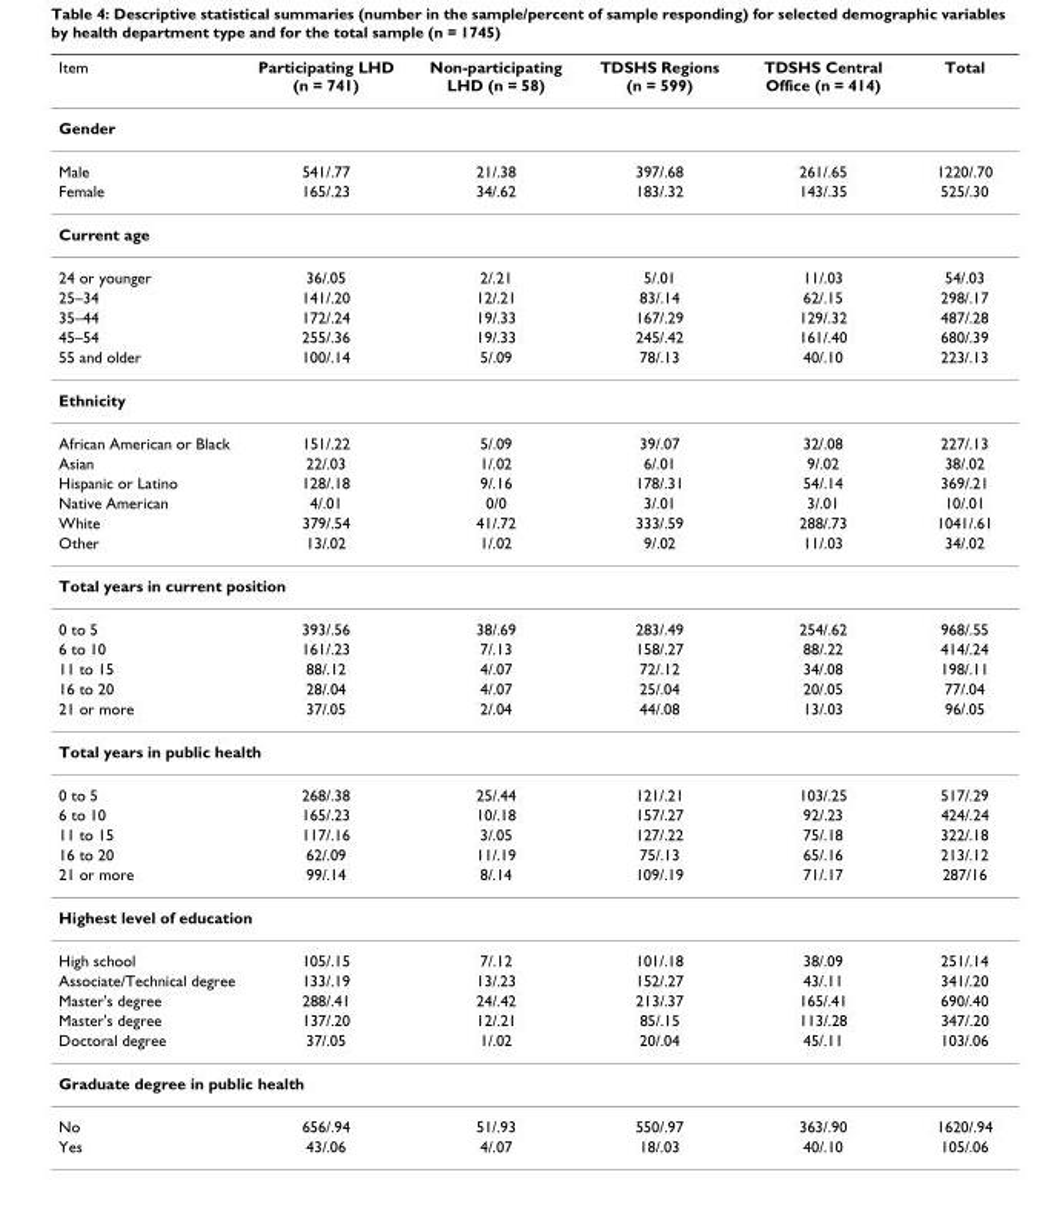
<table><thead><tr><td>Item</td><td>Participating LHD (n = 741)</td><td>Non-participating LHD (n = 58)</td><td>TDSHS Regions (n = 599)</td><td>TDSHS Central Office (n = 414)</td><td>Total</td></tr></thead><tbody><tr><td colspan="6">Gender</td></tr><tr><td>Male</td><td>541/.77</td><td>21/.38</td><td>397/.68</td><td>261/.65</td><td>1220/.70</td></tr><tr><td>Female</td><td>165/.23</td><td>34/.62</td><td>183/.32</td><td>143/.35</td><td>525/.30</td></tr><tr><td colspan="6">Current age</td></tr><tr><td>24 or younger</td><td>36/.05</td><td>2/.21</td><td>5/.01</td><td>11/.03</td><td>54/.03</td></tr><tr><td>25–34</td><td>141/.20</td><td>12/.21</td><td>83/.14</td><td>62/.15</td><td>298/.17</td></tr><tr><td>35–44</td><td>172/.24</td><td>19/.33</td><td>167/.29</td><td>129/.32</td><td>487/.28</td></tr><tr><td>45–54</td><td>255/.36</td><td>19/.33</td><td>245/.42</td><td>161/.40</td><td>680/.39</td></tr><tr><td>55 and older</td><td>100/.14</td><td>5/.09</td><td>78/.13</td><td>40/.10</td><td>223/.13</td></tr><tr><td colspan="6">Ethnicity</td></tr><tr><td>African American or Black</td><td>151/.22</td><td>5/.09</td><td>39/.07</td><td>32/.08</td><td>227/.13</td></tr><tr><td>Asian</td><td>22/.03</td><td>1/.02</td><td>6/.01</td><td>9/.02</td><td>38/.02</td></tr><tr><td>Hispanic or Latino</td><td>128/.18</td><td>9/.16</td><td>178/.31</td><td>54/.14</td><td>369/.21</td></tr><tr><td>Native American</td><td>4/.01</td><td>0/0</td><td>3/.01</td><td>3/.01</td><td>10/.01</td></tr><tr><td>White</td><td>379/.54</td><td>41/.72</td><td>333/.59</td><td>288/.73</td><td>1041/.61</td></tr><tr><td>Other</td><td>13/.02</td><td>1/.02</td><td>9/.02</td><td>11/.03</td><td>34/.02</td></tr><tr><td colspan="6">Total years in current position</td></tr><tr><td>0 to 5</td><td>393/.56</td><td>38/.69</td><td>283/.49</td><td>254/.62</td><td>968/.55</td></tr><tr><td>6 to 10</td><td>161/.23</td><td>7/.13</td><td>158/.27</td><td>88/.22</td><td>414/.24</td></tr><tr><td>11 to 15</td><td>88/.12</td><td>4/.07</td><td>72/.12</td><td>34/.08</td><td>198/.11</td></tr><tr><td>16 to 20</td><td>28/.04</td><td>4/.07</td><td>25/.04</td><td>20/.05</td><td>77/.04</td></tr><tr><td>21 or more</td><td>37/.05</td><td>2/.04</td><td>44/.08</td><td>13/.03</td><td>96/.05</td></tr><tr><td colspan="6">Total years in public health</td></tr><tr><td>0 to 5</td><td>268/.38</td><td>25/.44</td><td>121/.21</td><td>103/.25</td><td>517/.29</td></tr><tr><td>6 to 10</td><td>165/.23</td><td>10/.18</td><td>157/.27</td><td>92/.23</td><td>424/.24</td></tr><tr><td>11 to 15</td><td>117/.16</td><td>3/.05</td><td>127/.22</td><td>75/.18</td><td>322/.18</td></tr><tr><td>16 to 20</td><td>62/.09</td><td>11/.19</td><td>75/.13</td><td>65/.16</td><td>213/.12</td></tr><tr><td>21 or more</td><td>99/.14</td><td>8/.14</td><td>109/.19</td><td>71/.17</td><td>287/16</td></tr><tr><td colspan="6">Highest level of education</td></tr><tr><td>High school</td><td>105/.15</td><td>7/.12</td><td>101/.18</td><td>38/.09</td><td>251/.14</td></tr><tr><td>Associate/Technical degree</td><td>133/.19</td><td>13/.23</td><td>152/.27</td><td>43/.11</td><td>341/.20</td></tr><tr><td>Master&#x27;s degree</td><td>288/.41</td><td>24/.42</td><td>213/.37</td><td>165/.41</td><td>690/.40</td></tr><tr><td>Master&#x27;s degree</td><td>137/.20</td><td>12/.21</td><td>85/.15</td><td>113/.28</td><td>347/.20</td></tr><tr><td>Doctoral degree</td><td>37/.05</td><td>1/.02</td><td>20/.04</td><td>45/.11</td><td>103/.06</td></tr><tr><td colspan="6">Graduate degree in public health</td></tr><tr><td>No</td><td>656/.94</td><td>51/.93</td><td>550/.97</td><td>363/.90</td><td>1620/.94</td></tr><tr><td>Yes</td><td>43/.06</td><td>4/.07</td><td>18/.03</td><td>40/.10</td><td>105/.06</td></tr></tbody></table>